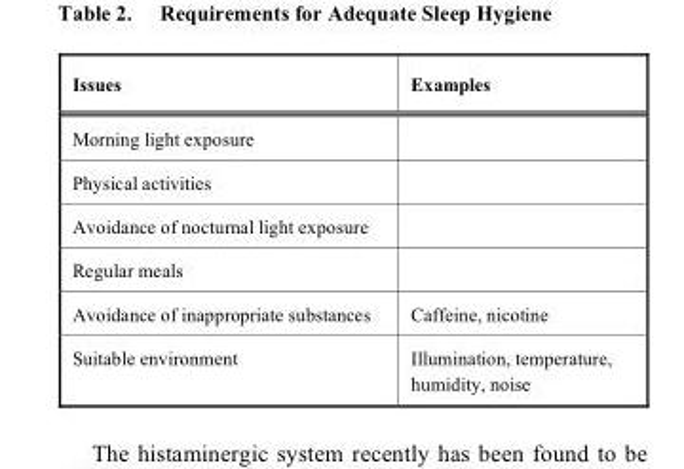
<table><thead><tr><td>Issues</td><td>Examples</td></tr></thead><tbody><tr><td colspan="2">Morning light exposure</td></tr><tr><td colspan="2">Physical activities</td></tr><tr><td colspan="2">Avoidance of nocturnal light exposure</td></tr><tr><td colspan="2">Regular meals</td></tr><tr><td>Avoidance of inappropriate substances</td><td>Caffeine, nicotine</td></tr><tr><td>Suitable environment</td><td>Illumination, temperature, humidity, noise</td></tr></tbody></table>